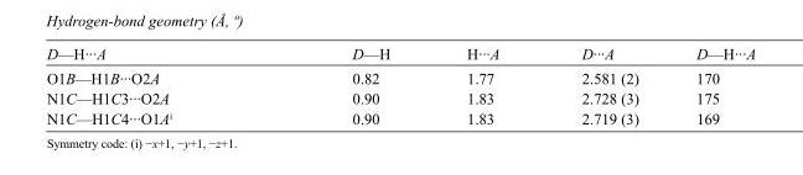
<table><tbody><tr><td>D—H···A</td><td>D—H</td><td>H···A</td><td>D···A</td><td>D—H···A</td></tr><tr><td>O1B—H1B···O2A</td><td>0.82</td><td>1.77</td><td>2.581 (2)</td><td>170</td></tr><tr><td>N1C—H1C3···O2A</td><td>0.90</td><td>1.83</td><td>2.728 (3)</td><td>175</td></tr><tr><td>N1C—H1C4···O1A<sup>i</sup></td><td>0.90</td><td>1.83</td><td>2.719 (3)</td><td>169</td></tr></tbody></table>